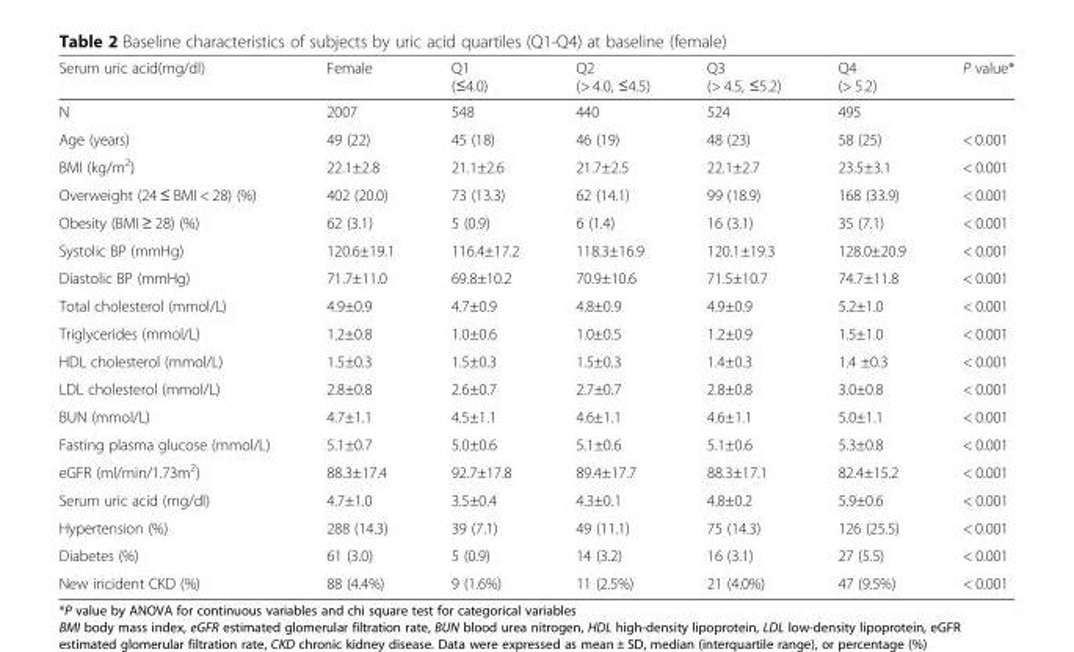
<table><thead><tr><td>Serum uric acid(mg/dl)</td><td>Female</td><td>Q1 (≤4.0)</td><td>Q2 (&gt; 4.0, ≤4.5)</td><td>Q3 (&gt; 4.5, ≤5.2)</td><td>Q4 (&gt; 5.2)</td><td>P value*</td></tr></thead><tbody><tr><td>N</td><td>2007</td><td>548</td><td>440</td><td>524</td><td>495</td><td></td></tr><tr><td>Age (years)</td><td>49 (22)</td><td>45 (18)</td><td>46 (19)</td><td>48 (23)</td><td>58 (25)</td><td>&lt; 0.001</td></tr><tr><td>BMI (kg/m<sup>2</sup>)</td><td>22.1±2.8</td><td>21.1±2.6</td><td>21.7±2.5</td><td>22.1±2.7</td><td>23.5±3.1</td><td>&lt; 0.001</td></tr><tr><td>Overweight (24 ≤ BMI &lt; 28) (%)</td><td>402 (20.0)</td><td>73 (13.3)</td><td>62 (14.1)</td><td>99 (18.9)</td><td>168 (33.9)</td><td>&lt; 0.001</td></tr><tr><td>Obesity (BMI ≥ 28) (%)</td><td>62 (3.1)</td><td>5 (0.9)</td><td>6 (1.4)</td><td>16 (3.1)</td><td>35 (7.1)</td><td>&lt; 0.001</td></tr><tr><td>Systolic BP (mmHg)</td><td>120.6±19.1</td><td>116.4±17.2</td><td>118.3±16.9</td><td>120.1±19.3</td><td>128.0±20.9</td><td>&lt; 0.001</td></tr><tr><td>Diastolic BP (mmHg)</td><td>71.7±11.0</td><td>69.8±10.2</td><td>70.9±10.6</td><td>71.5±10.7</td><td>74.7±11.8</td><td>&lt; 0.001</td></tr><tr><td>Total cholesterol (mmol/L)</td><td>4.9±0.9</td><td>4.7±0.9</td><td>4.8±0.9</td><td>4.9±0.9</td><td>5.2±1.0</td><td>&lt; 0.001</td></tr><tr><td>Triglycerides (mmol/L)</td><td>1.2±0.8</td><td>1.0±0.6</td><td>1.0±0.5</td><td>1.2±0.9</td><td>1.5±1.0</td><td>&lt; 0.001</td></tr><tr><td>HDL cholesterol (mmol/L)</td><td>1.5±0.3</td><td>1.5±0.3</td><td>1.5±0.3</td><td>1.4±0.3</td><td>1.4 ±0.3</td><td>&lt; 0.001</td></tr><tr><td>LDL cholesterol (mmol/L)</td><td>2.8±0.8</td><td>2.6±0.7</td><td>2.7±0.7</td><td>2.8±0.8</td><td>3.0±0.8</td><td>&lt; 0.001</td></tr><tr><td>BUN (mmol/L)</td><td>4.7±1.1</td><td>4.5±1.1</td><td>4.6±1.1</td><td>4.6±1.1</td><td>5.0±1.1</td><td>&lt; 0.001</td></tr><tr><td>Fasting plasma glucose (mmol/L)</td><td>5.1±0.7</td><td>5.0±0.6</td><td>5.1±0.6</td><td>5.1±0.6</td><td>5.3±0.8</td><td>&lt; 0.001</td></tr><tr><td>eGFR (ml/min/1.73m<sup>2</sup>)</td><td>88.3±17.4</td><td>92.7±17.8</td><td>89.4±17.7</td><td>88.3±17.1</td><td>82.4±15.2</td><td>&lt; 0.001</td></tr><tr><td>Serum uric acid (mg/dl)</td><td>4.7±1.0</td><td>3.5±0.4</td><td>4.3±0.1</td><td>4.8±0.2</td><td>5.9±0.6</td><td>&lt; 0.001</td></tr><tr><td>Hypertension (%)</td><td>288 (14.3)</td><td>39 (7.1)</td><td>49 (11.1)</td><td>75 (14.3)</td><td>126 (25.5)</td><td>&lt; 0.001</td></tr><tr><td>Diabetes (%)</td><td>61 (3.0)</td><td>5 (0.9)</td><td>14 (3.2)</td><td>16 (3.1)</td><td>27 (5.5)</td><td>&lt; 0.001</td></tr><tr><td>New incident CKD (%)</td><td>88 (4.4%)</td><td>9 (1.6%)</td><td>11 (2.5%)</td><td>21 (4.0%)</td><td>47 (9.5%)</td><td>&lt; 0.001</td></tr></tbody></table>